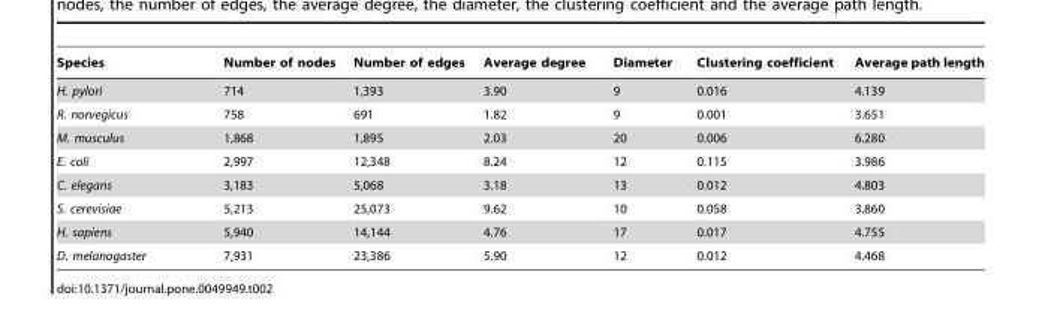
<table><thead><tr><td>Species</td><td>Number of nodes</td><td>Number of edges</td><td>Average degree</td><td>Diameter</td><td>Clustering coefficient</td><td>Average path length</td></tr></thead><tbody><tr><td>H. pylori</td><td>714</td><td>1,393</td><td>3.90</td><td>9</td><td>0.016</td><td>4.139</td></tr><tr><td>R. norvegicus</td><td>758</td><td>691</td><td>1.82</td><td>9</td><td>0.001</td><td>3.651</td></tr><tr><td>M. musculus</td><td>1,868</td><td>1,895</td><td>2.03</td><td>20</td><td>0.006</td><td>6.280</td></tr><tr><td>E. coli</td><td>2,997</td><td>12,348</td><td>8.24</td><td>12</td><td>0.115</td><td>3.986</td></tr><tr><td>C. elegans</td><td>3,183</td><td>5,068</td><td>3.18</td><td>13</td><td>0.012</td><td>4.803</td></tr><tr><td>S. cerevisiae</td><td>5,213</td><td>25,073</td><td>9.62</td><td>10</td><td>0.058</td><td>3.860</td></tr><tr><td>H. sapiens</td><td>5,940</td><td>14,144</td><td>4.76</td><td>17</td><td>0.017</td><td>4.755</td></tr><tr><td>D. melanogaster</td><td>7,931</td><td>23,386</td><td>5.90</td><td>12</td><td>0.012</td><td>4.468</td></tr></tbody></table>